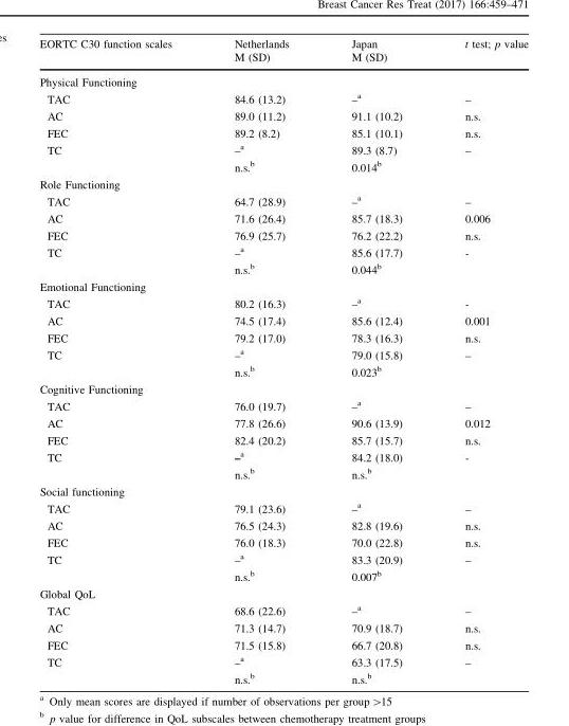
<table><thead><tr><td rowspan="2">EORTC C30 function scales</td><td rowspan="2">Netherlands M (SD)</td><td rowspan="2">Japan M (SD)</td><td rowspan="2">t test; p value</td></tr><tr></tr></thead><tbody><tr><td colspan="4">Physical Functioning</td></tr><tr><td>TAC</td><td>84.6 (13.2)</td><td>–<sup>a</sup></td><td>–</td></tr><tr><td>AC</td><td>89.0 (11.2)</td><td>91.1 (10.2)</td><td>n.s.</td></tr><tr><td>FEC</td><td>89.2 (8.2)</td><td>85.1 (10.1)</td><td>n.s.</td></tr><tr><td rowspan="2">TC</td><td>–<sup>a</sup></td><td>89.3 (8.7)</td><td rowspan="2">–</td></tr><tr><td>n.s.<sup>b</sup></td><td>0.014<sup>b</sup></td></tr><tr><td colspan="4">Role Functioning</td></tr><tr><td>TAC</td><td>64.7 (28.9)</td><td>–<sup>a</sup></td><td>–</td></tr><tr><td>AC</td><td>71.6 (26.4)</td><td>85.7 (18.3)</td><td>0.006</td></tr><tr><td>FEC</td><td>76.9 (25.7)</td><td>76.2 (22.2)</td><td>n.s.</td></tr><tr><td rowspan="2">TC</td><td>–<sup>a</sup></td><td>85.6 (17.7)</td><td rowspan="2">-</td></tr><tr><td>n.s.<sup>b</sup></td><td>0.044<sup>b</sup></td></tr><tr><td colspan="4">Emotional Functioning</td></tr><tr><td>TAC</td><td>80.2 (16.3)</td><td>–<sup>a</sup></td><td>-</td></tr><tr><td>AC</td><td>74.5 (17.4)</td><td>85.6 (12.4)</td><td>0.001</td></tr><tr><td>FEC</td><td>79.2 (17.0)</td><td>78.3 (16.3)</td><td>n.s.</td></tr><tr><td rowspan="2">TC</td><td>–<sup>a</sup></td><td>79.0 (15.8)</td><td rowspan="2">–</td></tr><tr><td>n.s.<sup>b</sup></td><td>0.023<sup>b</sup></td></tr><tr><td colspan="4">Cognitive Functioning</td></tr><tr><td>TAC</td><td>76.0 (19.7)</td><td>–<sup>a</sup></td><td>–</td></tr><tr><td>AC</td><td>77.8 (26.6)</td><td>90.6 (13.9)</td><td>0.012</td></tr><tr><td>FEC</td><td>82.4 (20.2)</td><td>85.7 (15.7)</td><td>n.s.</td></tr><tr><td rowspan="2">TC</td><td>–<sup>a</sup></td><td>84.2 (18.0)</td><td rowspan="2">-</td></tr><tr><td>n.s.<sup>b</sup></td><td>n.s.<sup>b</sup></td></tr><tr><td colspan="4">Social functioning</td></tr><tr><td>TAC</td><td>79.1 (23.6)</td><td>–<sup>a</sup></td><td>–</td></tr><tr><td>AC</td><td>76.5 (24.3)</td><td>82.8 (19.6)</td><td>n.s.</td></tr><tr><td>FEC</td><td>76.0 (18.3)</td><td>70.0 (22.8)</td><td>n.s.</td></tr><tr><td rowspan="2">TC</td><td>–<sup>a</sup></td><td>83.3 (20.9)</td><td rowspan="2">–</td></tr><tr><td>n.s.<sup>b</sup></td><td>0.007<sup>b</sup></td></tr><tr><td colspan="4">Global QoL</td></tr><tr><td>TAC</td><td>68.6 (22.6)</td><td>–<sup>a</sup></td><td>–</td></tr><tr><td>AC</td><td>71.3 (14.7)</td><td>70.9 (18.7)</td><td>n.s.</td></tr><tr><td>FEC</td><td>71.5 (15.8)</td><td>66.7 (20.8)</td><td>n.s.</td></tr><tr><td rowspan="2">TC</td><td>–<sup>a</sup></td><td>63.3 (17.5)</td><td rowspan="2">–</td></tr><tr><td>n.s.<sup>b</sup></td><td>n.s.<sup>b</sup></td></tr></tbody></table>